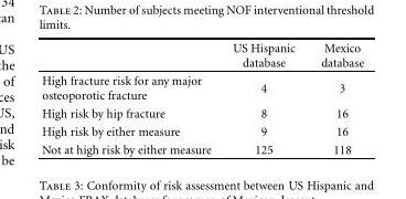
<table><thead><tr><td></td><td>US Hispanic database</td><td>Mexico database</td></tr></thead><tbody><tr><td>High fracture risk for any major osteoporotic fracture</td><td>4</td><td>3</td></tr><tr><td>High risk by hip fracture</td><td>8</td><td>16</td></tr><tr><td>High risk by either measure</td><td>9</td><td>16</td></tr><tr><td>Not at high risk by either measure</td><td>125</td><td>118</td></tr></tbody></table>